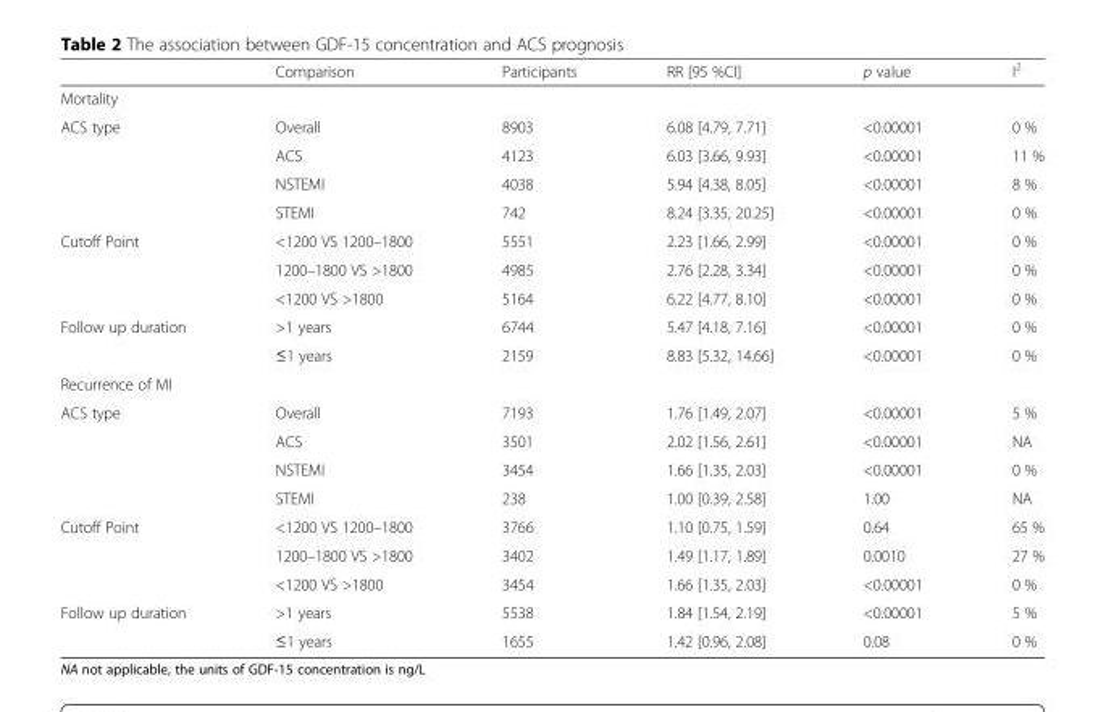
<table><thead><tr><td></td><td>Comparison</td><td>Participants</td><td>RR [95 %CI]</td><td>p value</td><td>I<sup>2</sup></td></tr></thead><tbody><tr><td colspan="6">Mortality</td></tr><tr><td rowspan="4">ACS type</td><td>Overall</td><td>8903</td><td>6.08 [4.79, 7.71]</td><td>&lt;0.00001</td><td>0 %</td></tr><tr><td>ACS</td><td>4123</td><td>6.03 [3.66, 9.93]</td><td>&lt;0.00001</td><td>11 %</td></tr><tr><td>NSTEMI</td><td>4038</td><td>5.94 [4.38, 8.05]</td><td>&lt;0.00001</td><td>8 %</td></tr><tr><td>STEMI</td><td>742</td><td>8.24 [3.35, 20.25]</td><td>&lt;0.00001</td><td>0 %</td></tr><tr><td rowspan="3">Cutoff Point</td><td>&lt;1200 VS 1200–1800</td><td>5551</td><td>2.23 [1.66, 2.99]</td><td>&lt;0.00001</td><td>0 %</td></tr><tr><td>1200–1800 VS &gt;1800</td><td>4985</td><td>2.76 [2.28, 3.34]</td><td>&lt;0.00001</td><td>0 %</td></tr><tr><td>&lt;1200 VS &gt;1800</td><td>5164</td><td>6.22 [4.77, 8.10]</td><td>&lt;0.00001</td><td>0 %</td></tr><tr><td rowspan="2">Follow up duration</td><td>&gt;1 years</td><td>6744</td><td>5.47 [4.18, 7.16]</td><td>&lt;0.00001</td><td>0 %</td></tr><tr><td>≤1 years</td><td>2159</td><td>8.83 [5.32, 14.66]</td><td>&lt;0.00001</td><td>0 %</td></tr><tr><td colspan="6">Recurrence of MI</td></tr><tr><td rowspan="4">ACS type</td><td>Overall</td><td>7193</td><td>1.76 [1.49, 2.07]</td><td>&lt;0.00001</td><td>5 %</td></tr><tr><td>ACS</td><td>3501</td><td>2.02 [1.56, 2.61]</td><td>&lt;0.00001</td><td>NA</td></tr><tr><td>NSTEMI</td><td>3454</td><td>1.66 [1.35, 2.03]</td><td>&lt;0.00001</td><td>0 %</td></tr><tr><td>STEMI</td><td>238</td><td>1.00 [0.39, 2.58]</td><td>1.00</td><td>NA</td></tr><tr><td rowspan="3">Cutoff Point</td><td>&lt;1200 VS 1200–1800</td><td>3766</td><td>1.10 [0.75, 1.59]</td><td>0.64</td><td>65 %</td></tr><tr><td>1200–1800 VS &gt;1800</td><td>3402</td><td>1.49 [1.17, 1.89]</td><td>0.0010</td><td>27 %</td></tr><tr><td>&lt;1200 VS &gt;1800</td><td>3454</td><td>1.66 [1.35, 2.03]</td><td>&lt;0.00001</td><td>0 %</td></tr><tr><td rowspan="2">Follow up duration</td><td>&gt;1 years</td><td>5538</td><td>1.84 [1.54, 2.19]</td><td>&lt;0.00001</td><td>5 %</td></tr><tr><td>≤1 years</td><td>1655</td><td>1.42 [0.96, 2.08]</td><td>0.08</td><td>0 %</td></tr></tbody></table>